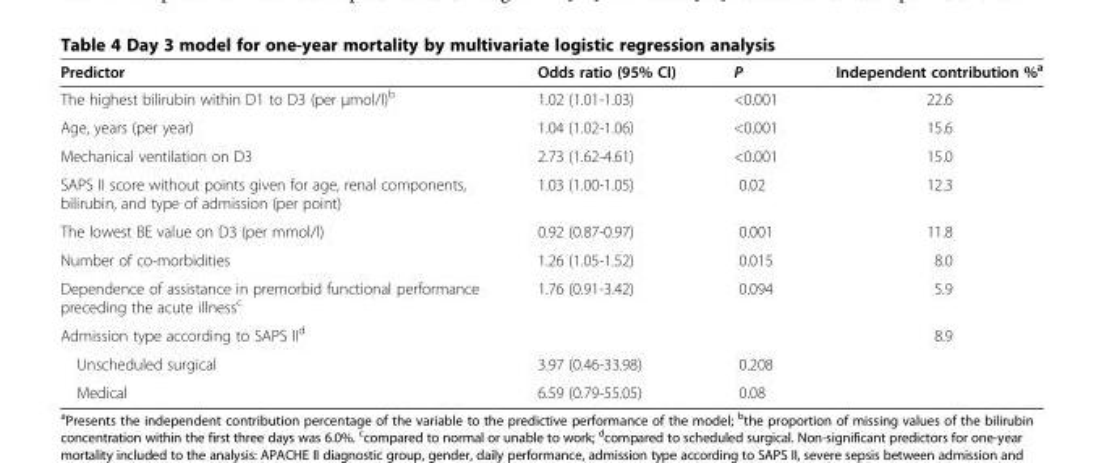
<table><thead><tr><td>Predictor</td><td>Odds ratio (95% CI)</td><td>P</td><td>Independent contribution %<sup>a</sup></td></tr></thead><tbody><tr><td>The highest bilirubin within D1 to D3 (per μmol/l)<sup>b</sup></td><td>1.02 (1.01-1.03)</td><td>&lt;0.001</td><td>22.6</td></tr><tr><td>Age, years (per year)</td><td>1.04 (1.02-1.06)</td><td>&lt;0.001</td><td>15.6</td></tr><tr><td>Mechanical ventilation on D3</td><td>2.73 (1.62-4.61)</td><td>&lt;0.001</td><td>15.0</td></tr><tr><td>SAPS II score without points given for age, renal components, bilirubin, and type of admission (per point)</td><td>1.03 (1.00-1.05)</td><td>0.02</td><td>12.3</td></tr><tr><td>The lowest BE value on D3 (per mmol/l)</td><td>0.92 (0.87-0.97)</td><td>0.001</td><td>11.8</td></tr><tr><td>Number of co-morbidities</td><td>1.26 (1.05-1.52)</td><td>0.015</td><td>8.0</td></tr><tr><td>Dependence of assistance in premorbid functional performance preceding the acute illness<sup>c</sup></td><td>1.76 (0.91-3.42)</td><td>0.094</td><td>5.9</td></tr><tr><td>Admission type according to SAPS II<sup>d</sup></td><td></td><td></td><td>8.9</td></tr><tr><td>Unscheduled surgical</td><td>3.97 (0.46-33.98)</td><td>0.208</td><td></td></tr><tr><td>Medical</td><td>6.59 (0.79-55.05)</td><td>0.08</td><td></td></tr></tbody></table>